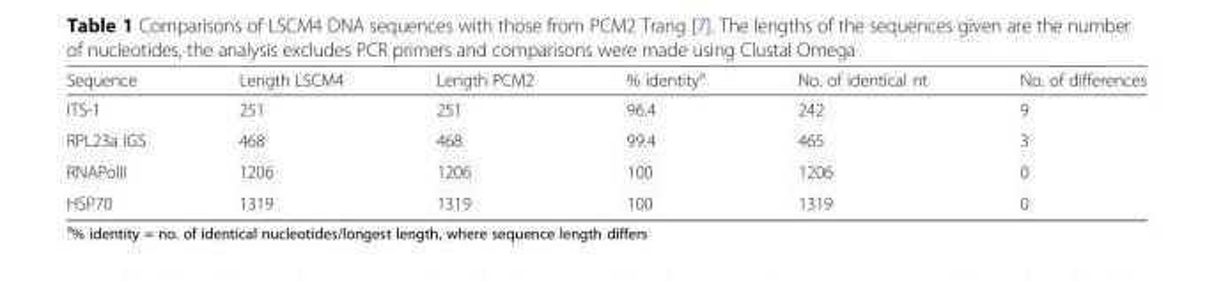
<table><thead><tr><td>Sequence</td><td>Length LSCM4</td><td>Length PCM2</td><td>% identity<sup>a</sup></td><td>No. of identical nt</td><td>No. of differences</td></tr></thead><tbody><tr><td>ITS-1</td><td>251</td><td>251</td><td>96.4</td><td>242</td><td>9</td></tr><tr><td>RPL23a IGS</td><td>468</td><td>468</td><td>99.4</td><td>465</td><td>3</td></tr><tr><td>RNAPolII</td><td>1206</td><td>1206</td><td>100</td><td>1206</td><td>0</td></tr><tr><td>HSP70</td><td>1319</td><td>1319</td><td>100</td><td>1319</td><td>0</td></tr></tbody></table>